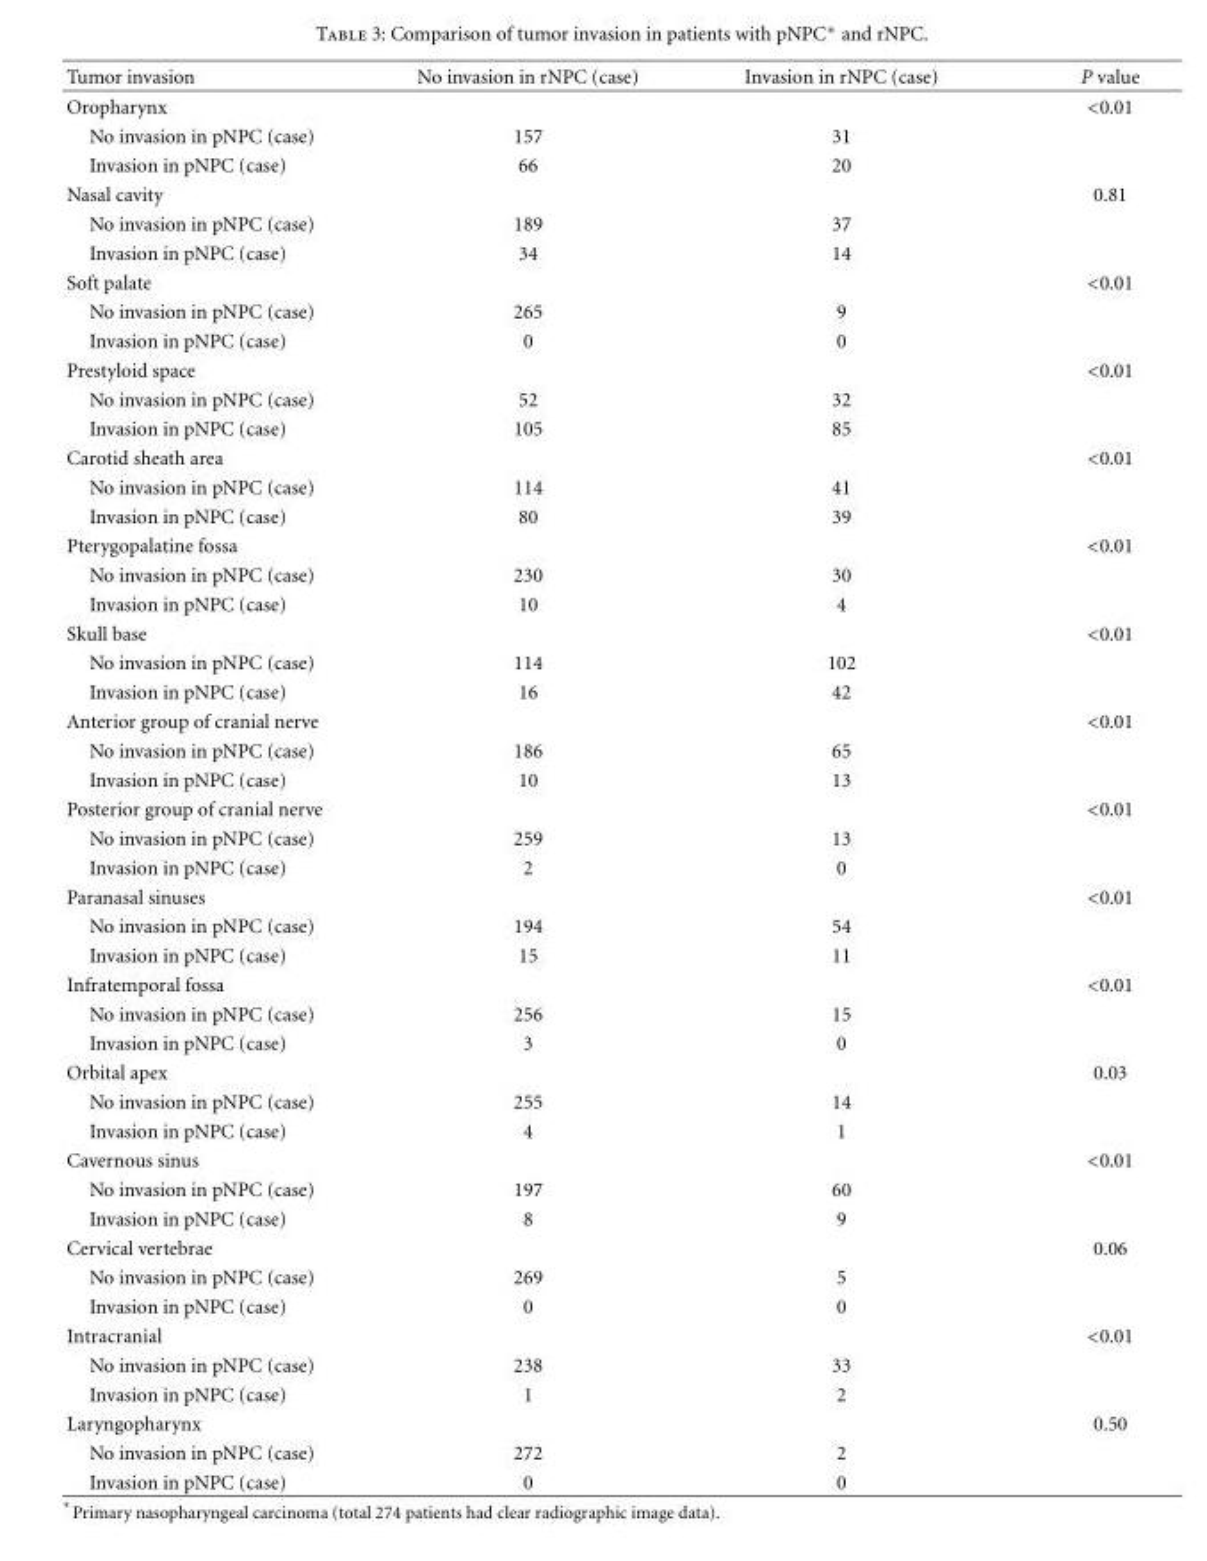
<table><thead><tr><td>Tumor invasion</td><td>No invasion in rNPC (case)</td><td>Invasion in rNPC (case)</td><td>P value</td></tr></thead><tbody><tr><td>Oropharynx</td><td></td><td></td><td>&lt;0.01</td></tr><tr><td>No invasion in pNPC (case)</td><td>157</td><td>31</td><td></td></tr><tr><td>Invasion in pNPC (case)</td><td>66</td><td>20</td><td></td></tr><tr><td>Nasal cavity</td><td></td><td></td><td>0.81</td></tr><tr><td>No invasion in pNPC (case)</td><td>189</td><td>37</td><td></td></tr><tr><td>Invasion in pNPC (case)</td><td>34</td><td>14</td><td></td></tr><tr><td>Soft palate</td><td></td><td></td><td>&lt;0.01</td></tr><tr><td>No invasion in pNPC (case)</td><td>265</td><td>9</td><td></td></tr><tr><td>Invasion in pNPC (case)</td><td>0</td><td>0</td><td></td></tr><tr><td>Prestyloid space</td><td></td><td></td><td>&lt;0.01</td></tr><tr><td>No invasion in pNPC (case)</td><td>52</td><td>32</td><td></td></tr><tr><td>Invasion in pNPC (case)</td><td>105</td><td>85</td><td></td></tr><tr><td>Carotid sheath area</td><td></td><td></td><td>&lt;0.01</td></tr><tr><td>No invasion in pNPC (case)</td><td>114</td><td>41</td><td></td></tr><tr><td>Invasion in pNPC (case)</td><td>80</td><td>39</td><td></td></tr><tr><td>Pterygopalatine fossa</td><td></td><td></td><td>&lt;0.01</td></tr><tr><td>No invasion in pNPC (case)</td><td>230</td><td>30</td><td></td></tr><tr><td>Invasion in pNPC (case)</td><td>10</td><td>4</td><td></td></tr><tr><td>Skull base</td><td></td><td></td><td>&lt;0.01</td></tr><tr><td>No invasion in pNPC (case)</td><td>114</td><td>102</td><td></td></tr><tr><td>Invasion in pNPC (case)</td><td>16</td><td>42</td><td></td></tr><tr><td>Anterior group of cranial nerve</td><td></td><td></td><td>&lt;0.01</td></tr><tr><td>No invasion in pNPC (case)</td><td>186</td><td>65</td><td></td></tr><tr><td>Invasion in pNPC (case)</td><td>10</td><td>13</td><td></td></tr><tr><td>Posterior group of cranial nerve</td><td></td><td></td><td>&lt;0.01</td></tr><tr><td>No invasion in pNPC (case)</td><td>259</td><td>13</td><td></td></tr><tr><td>Invasion in pNPC (case)</td><td>2</td><td>0</td><td></td></tr><tr><td>Paranasal sinuses</td><td></td><td></td><td>&lt;0.01</td></tr><tr><td>No invasion in pNPC (case)</td><td>194</td><td>54</td><td></td></tr><tr><td>Invasion in pNPC (case)</td><td>15</td><td>11</td><td></td></tr><tr><td>Infratemporal fossa</td><td></td><td></td><td>&lt;0.01</td></tr><tr><td>No invasion in pNPC (case)</td><td>256</td><td>15</td><td></td></tr><tr><td>Invasion in pNPC (case)</td><td>3</td><td>0</td><td></td></tr><tr><td>Orbital apex</td><td></td><td></td><td>0.03</td></tr><tr><td>No invasion in pNPC (case)</td><td>255</td><td>14</td><td></td></tr><tr><td>Invasion in pNPC (case)</td><td>4</td><td>1</td><td></td></tr><tr><td>Cavernous sinus</td><td></td><td></td><td>&lt;0.01</td></tr><tr><td>No invasion in pNPC (case)</td><td>197</td><td>60</td><td></td></tr><tr><td>Invasion in pNPC (case)</td><td>8</td><td>9</td><td></td></tr><tr><td>Cervical vertebrae</td><td></td><td></td><td>0.06</td></tr><tr><td>No invasion in pNPC (case)</td><td>269</td><td>5</td><td></td></tr><tr><td>Invasion in pNPC (case)</td><td>0</td><td>0</td><td></td></tr><tr><td>Intracranial</td><td></td><td></td><td>&lt;0.01</td></tr><tr><td>No invasion in pNPC (case)</td><td>238</td><td>33</td><td></td></tr><tr><td>Invasion in pNPC (case)</td><td>1</td><td>2</td><td></td></tr><tr><td>Laryngopharynx</td><td></td><td></td><td>0.50</td></tr><tr><td>No invasion in pNPC (case)</td><td>272</td><td>2</td><td></td></tr><tr><td>Invasion in pNPC (case)</td><td>0</td><td>0</td><td></td></tr></tbody></table>